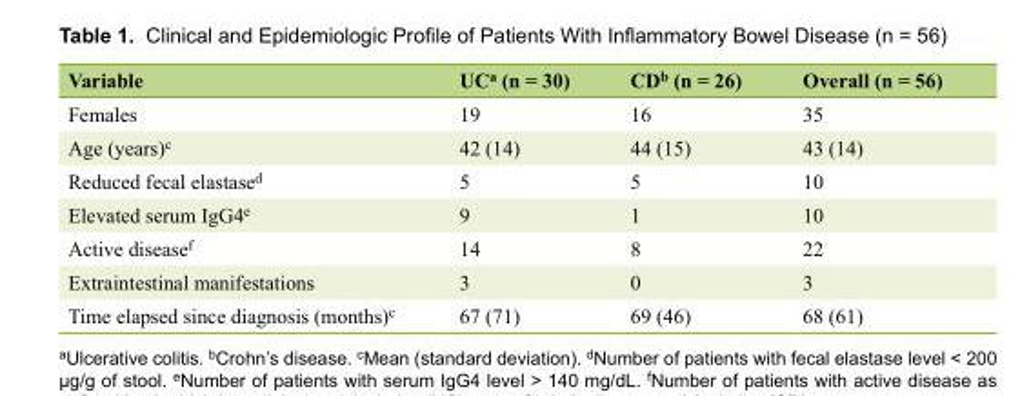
<table><thead><tr><td>Variable</td><td>UC<sup>a</sup> (n = 30)</td><td>CD<sup>b</sup> (n = 26)</td><td>Overall (n = 56)</td></tr></thead><tbody><tr><td>Females</td><td>19</td><td>16</td><td>35</td></tr><tr><td>Age (years)<sup>c</sup></td><td>42 (14)</td><td>44 (15)</td><td>43 (14)</td></tr><tr><td>Reduced fecal elastase<sup>d</sup></td><td>5</td><td>5</td><td>10</td></tr><tr><td>Elevated serum IgG4<sup>e</sup></td><td>9</td><td>1</td><td>10</td></tr><tr><td>Active disease<sup>f</sup></td><td>14</td><td>8</td><td>22</td></tr><tr><td>Extraintestinal manifestations</td><td>3</td><td>0</td><td>3</td></tr><tr><td>Time elapsed since diagnosis (months)<sup>c</sup></td><td>67 (71)</td><td>69 (46)</td><td>68 (61)</td></tr></tbody></table>